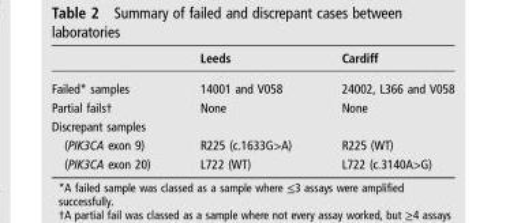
<table><thead><tr><td></td><td>Leeds</td><td>Cardiff</td></tr></thead><tbody><tr><td>Failed* samples</td><td>14001 and V058</td><td>24002, L366 and V058</td></tr><tr><td>Partial fails†</td><td>None</td><td>None</td></tr><tr><td colspan="3">Discrepant samples</td></tr><tr><td>(PIK3CA exon 9)</td><td>R225 (c.1633G&gt;A)</td><td>R225 (WT)</td></tr><tr><td>(PIK3CA exon 20)</td><td>L722 (WT)</td><td>L722 (c.3140A&gt;G)</td></tr></tbody></table>